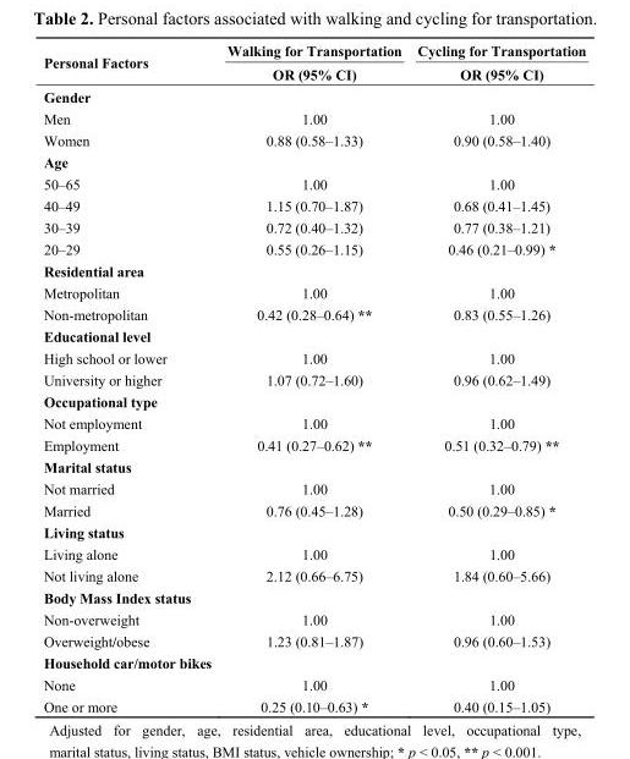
<table><thead><tr><td rowspan="2">Personal Factors</td><td rowspan="2">Walking for Transportation OR (95% CI)</td><td rowspan="2">Cycling for Transportation OR (95% CI)</td></tr><tr></tr></thead><tbody><tr><td colspan="3">Gender</td></tr><tr><td>Men</td><td>1.00</td><td>1.00</td></tr><tr><td>Women</td><td>0.88 (0.58–1.33)</td><td>0.90 (0.58–1.40)</td></tr><tr><td colspan="3">Age</td></tr><tr><td>50–65</td><td>1.00</td><td>1.00</td></tr><tr><td>40–49</td><td>1.15 (0.70–1.87)</td><td>0.68 (0.41–1.45)</td></tr><tr><td>30–39</td><td>0.72 (0.40–1.32)</td><td>0.77 (0.38–1.21)</td></tr><tr><td>20–29</td><td>0.55 (0.26–1.15)</td><td>0.46 (0.21–0.99) *</td></tr><tr><td colspan="3">Residential area</td></tr><tr><td>Metropolitan</td><td>1.00</td><td>1.00</td></tr><tr><td>Non-metropolitan</td><td>0.42 (0.28–0.64) **</td><td>0.83 (0.55–1.26)</td></tr><tr><td colspan="3">Educational level</td></tr><tr><td>High school or lower</td><td>1.00</td><td>1.00</td></tr><tr><td>University or higher</td><td>1.07 (0.72–1.60)</td><td>0.96 (0.62–1.49)</td></tr><tr><td colspan="3">Occupational type</td></tr><tr><td>Not employment</td><td>1.00</td><td>1.00</td></tr><tr><td>Employment</td><td>0.41 (0.27–0.62) **</td><td>0.51 (0.32–0.79) **</td></tr><tr><td colspan="3">Marital status</td></tr><tr><td>Not married</td><td>1.00</td><td>1.00</td></tr><tr><td>Married</td><td>0.76 (0.45–1.28)</td><td>0.50 (0.29–0.85) *</td></tr><tr><td colspan="3">Living status</td></tr><tr><td>Living alone</td><td>1.00</td><td>1.00</td></tr><tr><td>Not living alone</td><td>2.12 (0.66–6.75)</td><td>1.84 (0.60–5.66)</td></tr><tr><td colspan="3">Body Mass Index status</td></tr><tr><td>Non-overweight</td><td>1.00</td><td>1.00</td></tr><tr><td>Overweight/obese</td><td>1.23 (0.81–1.87)</td><td>0.96 (0.60–1.53)</td></tr><tr><td colspan="3">Household car/motor bikes</td></tr><tr><td>None</td><td>1.00</td><td>1.00</td></tr><tr><td>One or more</td><td>0.25 (0.10–0.63) *</td><td>0.40 (0.15–1.05)</td></tr></tbody></table>